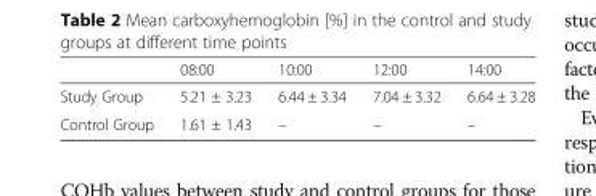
<table><thead><tr><td></td><td>08:00</td><td>10:00</td><td>12:00</td><td>14:00</td></tr></thead><tbody><tr><td>Study Group</td><td>5.21 ± 3.23</td><td>6.44 ± 3.34</td><td>7.04 ± 3.32</td><td>6.64 ± 3.28</td></tr><tr><td>Control Group</td><td>1.61 ± 1.43</td><td>–</td><td>–</td><td>–</td></tr></tbody></table>